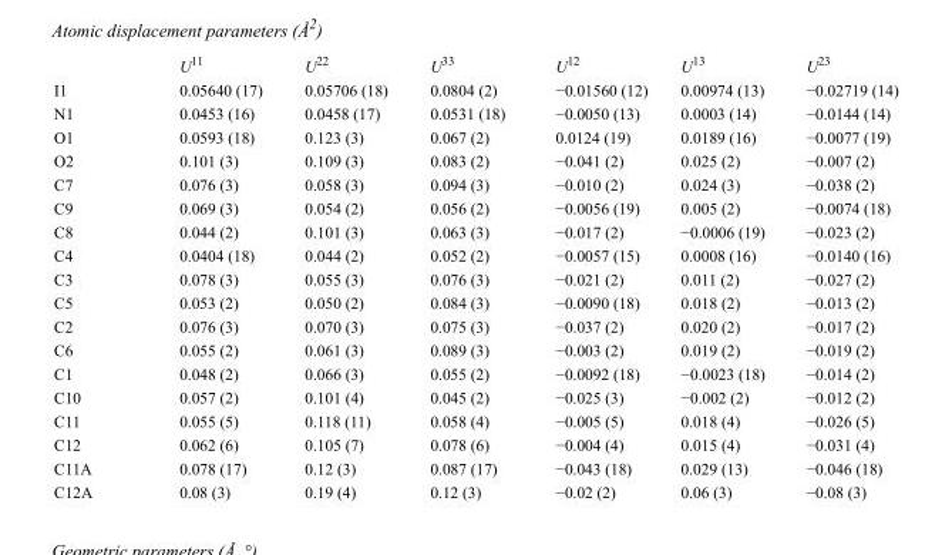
<table><thead><tr><td></td><td>U<sup>11</sup></td><td>U<sup>22</sup></td><td>U<sup>33</sup></td><td>U<sup>12</sup></td><td>U<sup>13</sup></td><td>U<sup>23</sup></td></tr></thead><tbody><tr><td>I1</td><td>0.05640 (17)</td><td>0.05706 (18)</td><td>0.0804 (2)</td><td>−0.01560 (12)</td><td>0.00974 (13)</td><td>−0.02719 (14)</td></tr><tr><td>N1</td><td>0.0453 (16)</td><td>0.0458 (17)</td><td>0.0531 (18)</td><td>−0.0050 (13)</td><td>0.0003 (14)</td><td>−0.0144 (14)</td></tr><tr><td>O1</td><td>0.0593 (18)</td><td>0.123 (3)</td><td>0.067 (2)</td><td>0.0124 (19)</td><td>0.0189 (16)</td><td>−0.0077 (19)</td></tr><tr><td>O2</td><td>0.101 (3)</td><td>0.109 (3)</td><td>0.083 (2)</td><td>−0.041 (2)</td><td>0.025 (2)</td><td>−0.007 (2)</td></tr><tr><td>C7</td><td>0.076 (3)</td><td>0.058 (3)</td><td>0.094 (3)</td><td>−0.010 (2)</td><td>0.024 (3)</td><td>−0.038 (2)</td></tr><tr><td>C9</td><td>0.069 (3)</td><td>0.054 (2)</td><td>0.056 (2)</td><td>−0.0056 (19)</td><td>0.005 (2)</td><td>−0.0074 (18)</td></tr><tr><td>C8</td><td>0.044 (2)</td><td>0.101 (3)</td><td>0.063 (3)</td><td>−0.017 (2)</td><td>−0.0006 (19)</td><td>−0.023 (2)</td></tr><tr><td>C4</td><td>0.0404 (18)</td><td>0.044 (2)</td><td>0.052 (2)</td><td>−0.0057 (15)</td><td>0.0008 (16)</td><td>−0.0140 (16)</td></tr><tr><td>C3</td><td>0.078 (3)</td><td>0.055 (3)</td><td>0.076 (3)</td><td>−0.021 (2)</td><td>0.011 (2)</td><td>−0.027 (2)</td></tr><tr><td>C5</td><td>0.053 (2)</td><td>0.050 (2)</td><td>0.084 (3)</td><td>−0.0090 (18)</td><td>0.018 (2)</td><td>−0.013 (2)</td></tr><tr><td>C2</td><td>0.076 (3)</td><td>0.070 (3)</td><td>0.075 (3)</td><td>−0.037 (2)</td><td>0.020 (2)</td><td>−0.017 (2)</td></tr><tr><td>C6</td><td>0.055 (2)</td><td>0.061 (3)</td><td>0.089 (3)</td><td>−0.003 (2)</td><td>0.019 (2)</td><td>−0.019 (2)</td></tr><tr><td>C1</td><td>0.048 (2)</td><td>0.066 (3)</td><td>0.055 (2)</td><td>−0.0092 (18)</td><td>−0.0023 (18)</td><td>−0.014 (2)</td></tr><tr><td>C10</td><td>0.057 (2)</td><td>0.101 (4)</td><td>0.045 (2)</td><td>−0.025 (3)</td><td>−0.002 (2)</td><td>−0.012 (2)</td></tr><tr><td>C11</td><td>0.055 (5)</td><td>0.118 (11)</td><td>0.058 (4)</td><td>−0.005 (5)</td><td>0.018 (4)</td><td>−0.026 (5)</td></tr><tr><td>C12</td><td>0.062 (6)</td><td>0.105 (7)</td><td>0.078 (6)</td><td>−0.004 (4)</td><td>0.015 (4)</td><td>−0.031 (4)</td></tr><tr><td>C11A</td><td>0.078 (17)</td><td>0.12 (3)</td><td>0.087 (17)</td><td>−0.043 (18)</td><td>0.029 (13)</td><td>−0.046 (18)</td></tr><tr><td>C12A</td><td>0.08 (3)</td><td>0.19 (4)</td><td>0.12 (3)</td><td>−0.02 (2)</td><td>0.06 (3)</td><td>−0.08 (3)</td></tr></tbody></table>